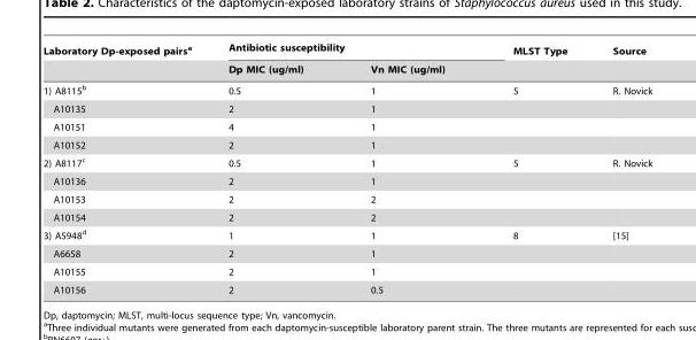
<table><thead><tr><td rowspan="2">Laboratory Dp-exposed pairs<sup>a</sup></td><td colspan="2">Antibiotic susceptibility</td><td rowspan="2">MLST Type</td><td rowspan="2">Source</td></tr><tr><td>Dp MIC (ug/ml)</td><td>Vn MIC (ug/ml)</td></tr></thead><tbody><tr><td>1) A8115<sup>b</sup></td><td>0.5</td><td>1</td><td>5</td><td>R. Novick</td></tr><tr><td>A10135</td><td>2</td><td>1</td><td></td><td></td></tr><tr><td>A10151</td><td>4</td><td>1</td><td></td><td></td></tr><tr><td>A10152</td><td>2</td><td>1</td><td></td><td></td></tr><tr><td>2) A8117<sup>c</sup></td><td>0.5</td><td>1</td><td>5</td><td>R. Novick</td></tr><tr><td>A10136</td><td>2</td><td>1</td><td></td><td></td></tr><tr><td>A10153</td><td>2</td><td>2</td><td></td><td></td></tr><tr><td>A10154</td><td>2</td><td>2</td><td></td><td></td></tr><tr><td>3) A5948<sup>d</sup></td><td>1</td><td>1</td><td>8</td><td>[15]</td></tr><tr><td>A6658</td><td>2</td><td>1</td><td></td><td></td></tr><tr><td>A10155</td><td>2</td><td>1</td><td></td><td></td></tr><tr><td>A10156</td><td>2</td><td>0.5</td><td></td><td></td></tr></tbody></table>